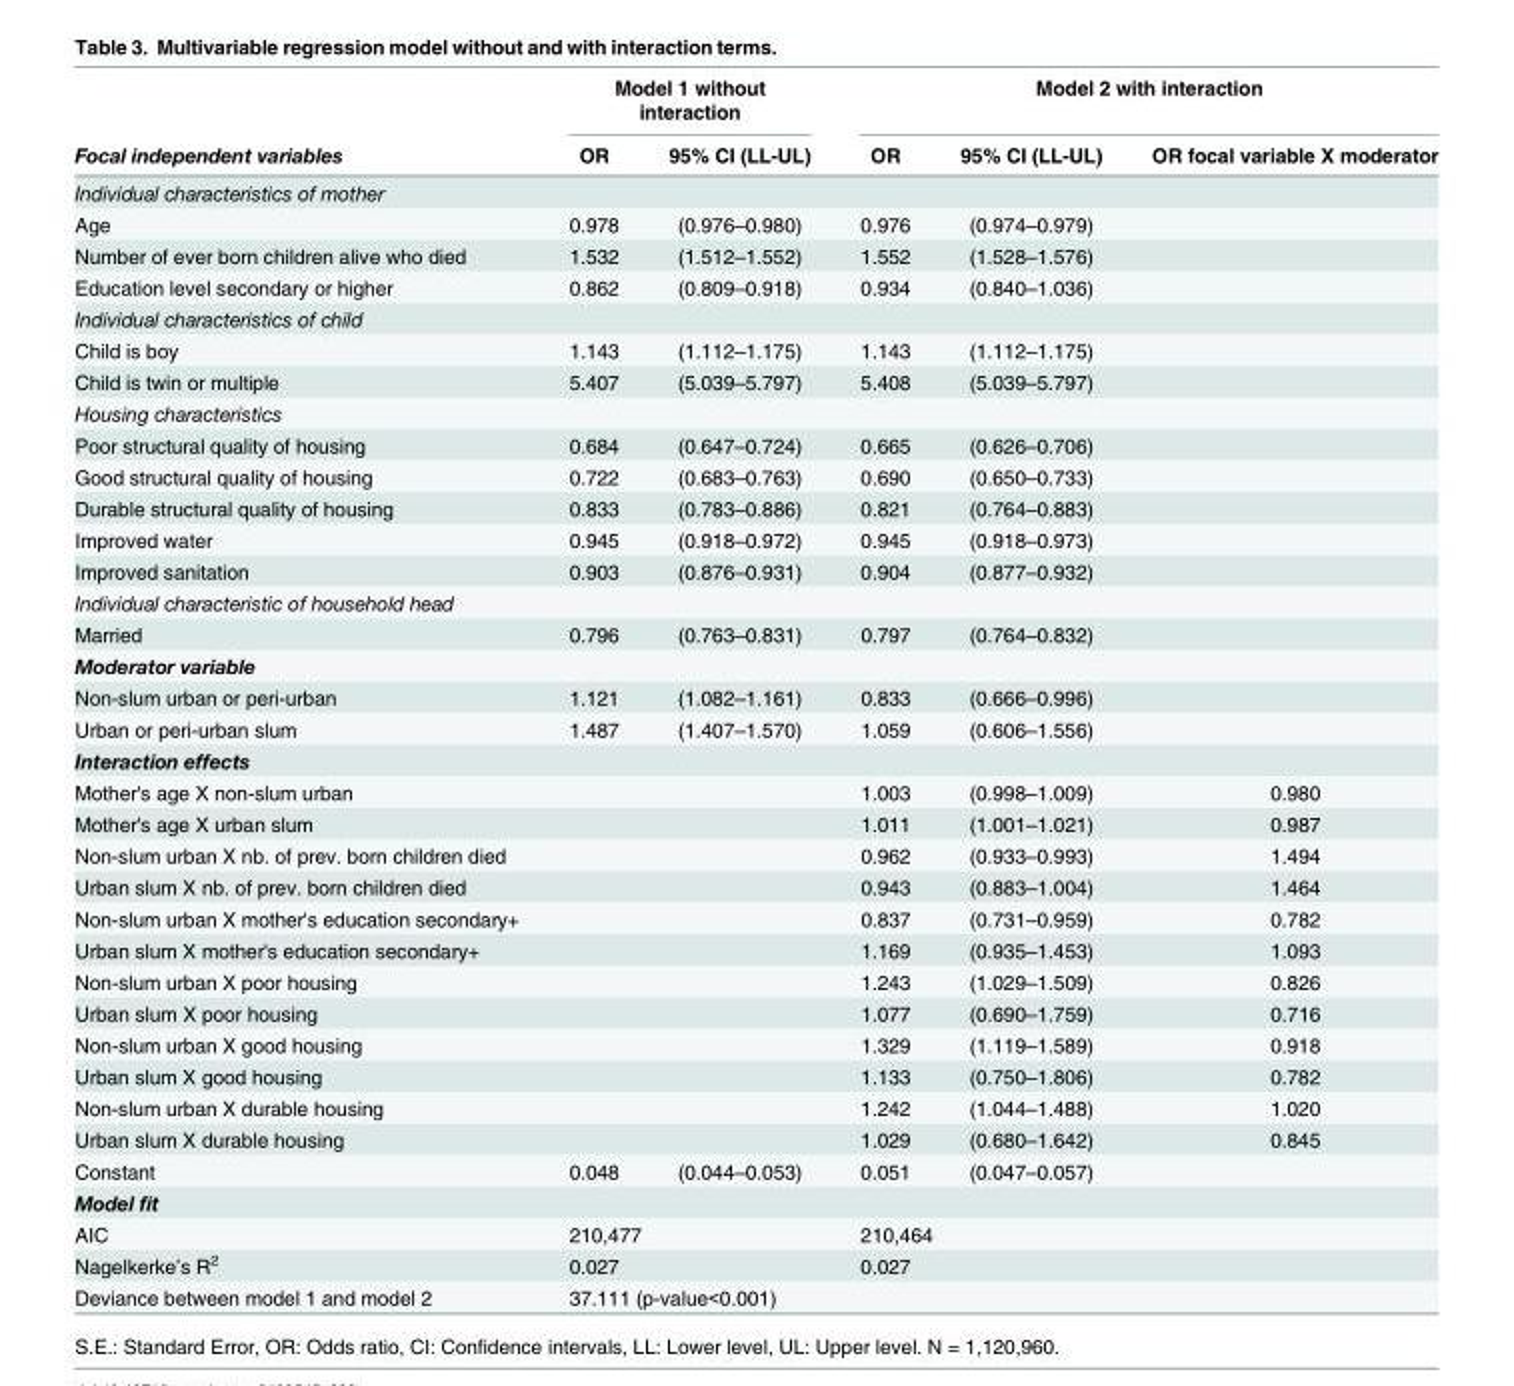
<table><thead><tr><td rowspan="2">Focal independent variables</td><td colspan="2">Model 1 without interaction</td><td colspan="3">Model 2 with interaction</td></tr><tr><td>OR</td><td>95% CI (LL-UL)</td><td>OR</td><td>95% CI (LL-UL)</td><td>OR focal variable X moderator</td></tr></thead><tbody><tr><td colspan="6">Individual characteristics of mother</td></tr><tr><td>Age</td><td>0.978</td><td>(0.976–0.980)</td><td>0.976</td><td>(0.974–0.979)</td><td></td></tr><tr><td>Number of ever born children alive who died</td><td>1.532</td><td>(1.512–1.552)</td><td>1.552</td><td>(1.528–1.576)</td><td></td></tr><tr><td>Education level secondary or higher</td><td>0.862</td><td>(0.809–0.918)</td><td>0.934</td><td>(0.840–1.036)</td><td></td></tr><tr><td colspan="6">Individual characteristics of child</td></tr><tr><td>Child is boy</td><td>1.143</td><td>(1.112–1.175)</td><td>1.143</td><td>(1.112–1.175)</td><td></td></tr><tr><td>Child is twin or multiple</td><td>5.407</td><td>(5.039–5.797)</td><td>5.408</td><td>(5.039–5.797)</td><td></td></tr><tr><td colspan="6">Housing characteristics</td></tr><tr><td>Poor structural quality of housing</td><td>0.684</td><td>(0.647–0.724)</td><td>0.665</td><td>(0.626–0.706)</td><td></td></tr><tr><td>Good structural quality of housing</td><td>0.722</td><td>(0.683–0.763)</td><td>0.690</td><td>(0.650–0.733)</td><td></td></tr><tr><td>Durable structural quality of housing</td><td>0.833</td><td>(0.783–0.886)</td><td>0.821</td><td>(0.764–0.883)</td><td></td></tr><tr><td>Improved water</td><td>0.945</td><td>(0.918–0.972)</td><td>0.945</td><td>(0.918–0.973)</td><td></td></tr><tr><td>Improved sanitation</td><td>0.903</td><td>(0.876–0.931)</td><td>0.904</td><td>(0.877–0.932)</td><td></td></tr><tr><td colspan="6">Individual characteristic of household head</td></tr><tr><td>Married</td><td>0.796</td><td>(0.763–0.831)</td><td>0.797</td><td>(0.764–0.832)</td><td></td></tr><tr><td colspan="6">Moderator variable</td></tr><tr><td>Non-slum urban or peri-urban</td><td>1.121</td><td>(1.082–1.161)</td><td>0.833</td><td>(0.666–0.996)</td><td></td></tr><tr><td>Urban or peri-urban slum</td><td>1.487</td><td>(1.407–1.570)</td><td>1.059</td><td>(0.606–1.556)</td><td></td></tr><tr><td colspan="6">Interaction effects</td></tr><tr><td>Mother&#x27;s age X non-slum urban</td><td></td><td></td><td>1.003</td><td>(0.998–1.009)</td><td>0.980</td></tr><tr><td>Mother&#x27;s age X urban slum</td><td></td><td></td><td>1.011</td><td>(1.001–1.021)</td><td>0.987</td></tr><tr><td>Non-slum urban X nb. of prev. born children died</td><td></td><td></td><td>0.962</td><td>(0.933–0.993)</td><td>1.494</td></tr><tr><td>Urban slum X nb. of prev. born children died</td><td></td><td></td><td>0.943</td><td>(0.883–1.004)</td><td>1.464</td></tr><tr><td>Non-slum urban X mother&#x27;s education secondary+</td><td></td><td></td><td>0.837</td><td>(0.731–0.959)</td><td>0.782</td></tr><tr><td>Urban slum X mother&#x27;s education secondary+</td><td></td><td></td><td>1.169</td><td>(0.935–1.453)</td><td>1.093</td></tr><tr><td>Non-slum urban X poor housing</td><td></td><td></td><td>1.243</td><td>(1.029–1.509)</td><td>0.826</td></tr><tr><td>Urban slum X poor housing</td><td></td><td></td><td>1.077</td><td>(0.690–1.759)</td><td>0.716</td></tr><tr><td>Non-slum urban X good housing</td><td></td><td></td><td>1.329</td><td>(1.119–1.589)</td><td>0.918</td></tr><tr><td>Urban slum X good housing</td><td></td><td></td><td>1.133</td><td>(0.750–1.806)</td><td>0.782</td></tr><tr><td>Non-slum urban X durable housing</td><td></td><td></td><td>1.242</td><td>(1.044–1.488)</td><td>1.020</td></tr><tr><td>Urban slum X durable housing</td><td></td><td></td><td>1.029</td><td>(0.680–1.642)</td><td>0.845</td></tr><tr><td>Constant</td><td>0.048</td><td>(0.044–0.053)</td><td>0.051</td><td>(0.047–0.057)</td><td></td></tr><tr><td colspan="6">Model fit</td></tr><tr><td>AIC</td><td colspan="2">210,477</td><td colspan="2">210,464</td><td></td></tr><tr><td>Nagelkerke’s R<sup>2</sup></td><td>0.027</td><td></td><td>0.027</td><td></td><td></td></tr><tr><td>Deviance between model 1 and model 2</td><td colspan="2">37.111 (p-value&lt;0.001)</td><td></td><td></td><td></td></tr></tbody></table>